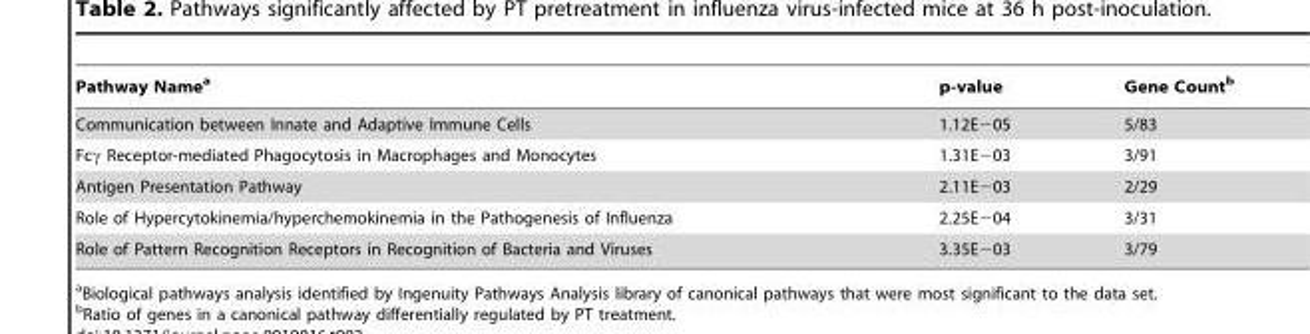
<table><thead><tr><td>Pathway Name<sup>a</sup></td><td>p-value</td><td>Gene Count<sup>b</sup></td></tr></thead><tbody><tr><td>Communication between Innate and Adaptive Immune Cells</td><td>1.12E−05</td><td>5/83</td></tr><tr><td>Fcγ Receptor-mediated Phagocytosis in Macrophages and Monocytes</td><td>1.31E−03</td><td>3/91</td></tr><tr><td>Antigen Presentation Pathway</td><td>2.11E−03</td><td>2/29</td></tr><tr><td>Role of Hypercytokinemia/hyperchemokinemia in the Pathogenesis of Influenza</td><td>2.25E−04</td><td>3/31</td></tr><tr><td>Role of Pattern Recognition Receptors in Recognition of Bacteria and Viruses</td><td>3.35E−03</td><td>3/79</td></tr></tbody></table>